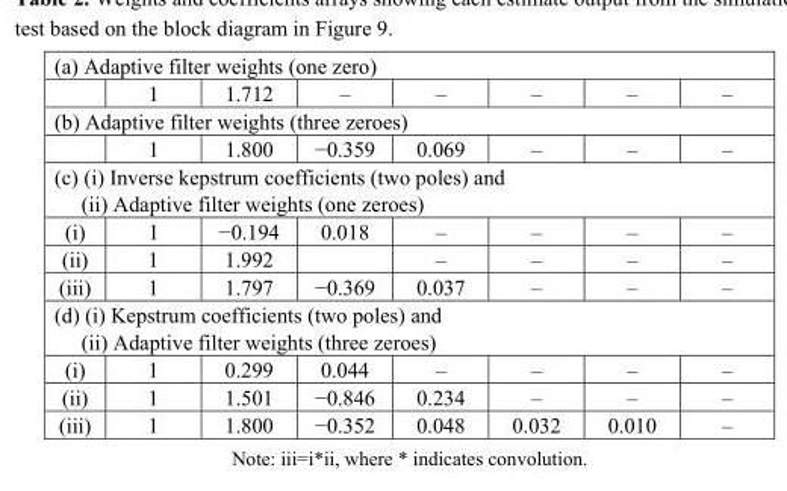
<table><tbody><tr><td colspan="8">(a) Adaptive filter weights (one zero)</td></tr><tr><td></td><td>1</td><td>1.712</td><td>–</td><td>–</td><td>–</td><td>–</td><td>–</td></tr><tr><td colspan="8">(b) Adaptive filter weights (three zeroes)</td></tr><tr><td></td><td>1</td><td>1.800</td><td>−0.359</td><td>0.069</td><td>–</td><td>–</td><td>–</td></tr><tr><td colspan="8">(c) (i) Inverse kepstrum coefficients (two poles) and (ii) Adaptive filter weights (one zeroes)</td></tr><tr><td>(i)</td><td>1</td><td>−0.194</td><td>0.018</td><td>–</td><td>–</td><td>–</td><td>–</td></tr><tr><td>(ii)</td><td>1</td><td>1.992</td><td></td><td>–</td><td>–</td><td>–</td><td>–</td></tr><tr><td>(iii)</td><td>1</td><td>1.797</td><td>−0.369</td><td>0.037</td><td>–</td><td>–</td><td>–</td></tr><tr><td colspan="8">(d) (i) Kepstrum coefficients (two poles) and (ii) Adaptive filter weights (three zeroes)</td></tr><tr><td>(i)</td><td>1</td><td>0.299</td><td>0.044</td><td>–</td><td>–</td><td>–</td><td>–</td></tr><tr><td>(ii)</td><td>1</td><td>1.501</td><td>−0.846</td><td>0.234</td><td>–</td><td>–</td><td>–</td></tr><tr><td>(iii)</td><td>1</td><td>1.800</td><td>−0.352</td><td>0.048</td><td>0.032</td><td>0.010</td><td>–</td></tr></tbody></table>